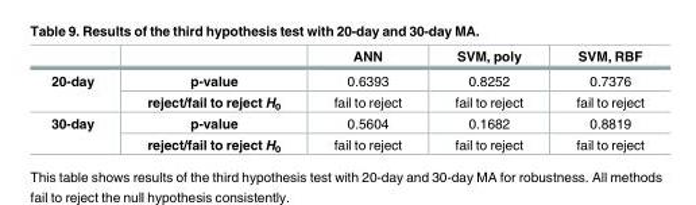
<table><thead><tr><td></td><td></td><td>ANN</td><td>SVM, poly</td><td>SVM, RBF</td></tr></thead><tbody><tr><td rowspan="2">20-day</td><td>p-value</td><td>0.6393</td><td>0.8252</td><td>0.7376</td></tr><tr><td>reject/fail to reject H<sub>0</sub></td><td>fail to reject</td><td>fail to reject</td><td>fail to reject</td></tr><tr><td rowspan="2">30-day</td><td>p-value</td><td>0.5604</td><td>0.1682</td><td>0.8819</td></tr><tr><td>reject/fail to reject H<sub>0</sub></td><td>fail to reject</td><td>fail to reject</td><td>fail to reject</td></tr></tbody></table>